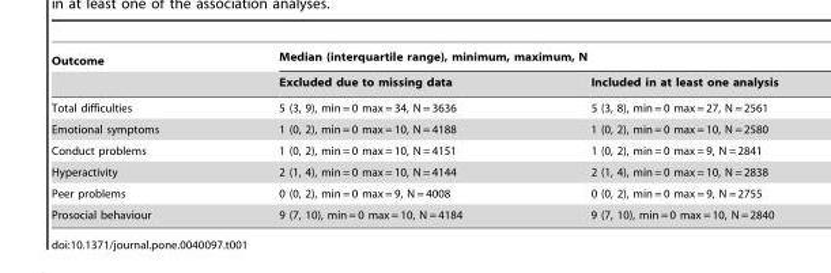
<table><thead><tr><td rowspan="2">Outcome</td><td colspan="2">Median (interquartile range), minimum, maximum, N</td></tr><tr><td>Excluded due to missing data</td><td>Included in at least one analysis</td></tr></thead><tbody><tr><td>Total difficulties</td><td>5 (3, 9), min = 0 max = 34, N = 3636</td><td>5 (3, 8), min = 0 max = 27, N = 2561</td></tr><tr><td>Emotional symptoms</td><td>1 (0, 2), min = 0 max = 10, N = 4188</td><td>1 (0, 2), min = 0 max = 10, N = 2580</td></tr><tr><td>Conduct problems</td><td>1 (0, 2), min = 0 max = 10, N = 4151</td><td>1 (0, 2), min = 0 max = 9, N = 2841</td></tr><tr><td>Hyperactivity</td><td>2 (1, 4), min = 0 max = 10, N = 4144</td><td>2 (1, 4), min = 0 max = 10, N = 2838</td></tr><tr><td>Peer problems</td><td>0 (0, 2), min = 0 max = 9, N = 4008</td><td>0 (0, 2), min = 0 max = 9, N = 2755</td></tr><tr><td>Prosocial behaviour</td><td>9 (7, 10), min = 0 max = 10, N = 4184</td><td>9 (7, 10), min = 0 max = 10, N = 2840</td></tr></tbody></table>